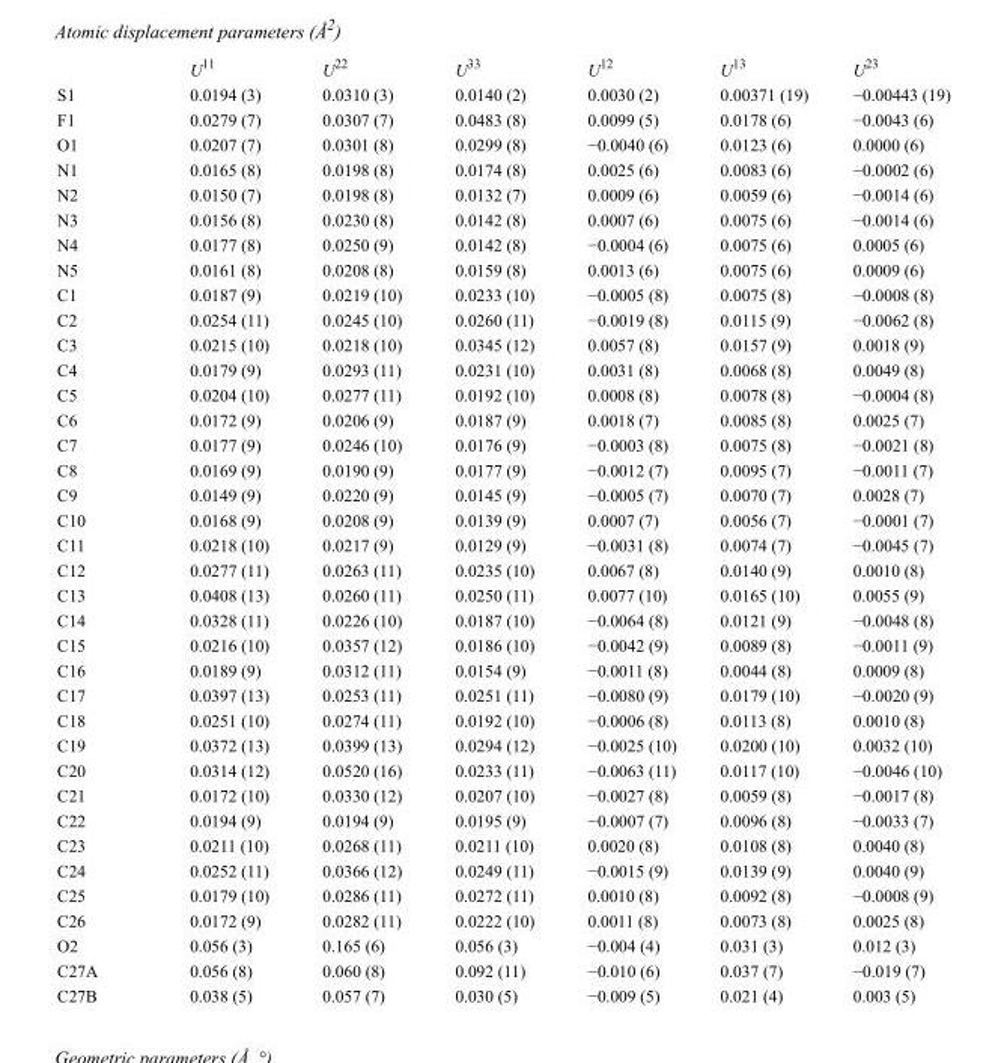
<table><thead><tr><td></td><td>U<sup>11</sup></td><td>U<sup>22</sup></td><td>U<sup>33</sup></td><td>U<sup>12</sup></td><td>U<sup>13</sup></td><td>U<sup>23</sup></td></tr></thead><tbody><tr><td>S1</td><td>0.0194 (3)</td><td>0.0310 (3)</td><td>0.0140 (2)</td><td>0.0030 (2)</td><td>0.00371 (19)</td><td>−0.00443 (19)</td></tr><tr><td>F1</td><td>0.0279 (7)</td><td>0.0307 (7)</td><td>0.0483 (8)</td><td>0.0099 (5)</td><td>0.0178 (6)</td><td>−0.0043 (6)</td></tr><tr><td>O1</td><td>0.0207 (7)</td><td>0.0301 (8)</td><td>0.0299 (8)</td><td>−0.0040 (6)</td><td>0.0123 (6)</td><td>0.0000 (6)</td></tr><tr><td>N1</td><td>0.0165 (8)</td><td>0.0198 (8)</td><td>0.0174 (8)</td><td>0.0025 (6)</td><td>0.0083 (6)</td><td>−0.0002 (6)</td></tr><tr><td>N2</td><td>0.0150 (7)</td><td>0.0198 (8)</td><td>0.0132 (7)</td><td>0.0009 (6)</td><td>0.0059 (6)</td><td>−0.0014 (6)</td></tr><tr><td>N3</td><td>0.0156 (8)</td><td>0.0230 (8)</td><td>0.0142 (8)</td><td>0.0007 (6)</td><td>0.0075 (6)</td><td>−0.0014 (6)</td></tr><tr><td>N4</td><td>0.0177 (8)</td><td>0.0250 (9)</td><td>0.0142 (8)</td><td>−0.0004 (6)</td><td>0.0075 (6)</td><td>0.0005 (6)</td></tr><tr><td>N5</td><td>0.0161 (8)</td><td>0.0208 (8)</td><td>0.0159 (8)</td><td>0.0013 (6)</td><td>0.0075 (6)</td><td>0.0009 (6)</td></tr><tr><td>C1</td><td>0.0187 (9)</td><td>0.0219 (10)</td><td>0.0233 (10)</td><td>−0.0005 (8)</td><td>0.0075 (8)</td><td>−0.0008 (8)</td></tr><tr><td>C2</td><td>0.0254 (11)</td><td>0.0245 (10)</td><td>0.0260 (11)</td><td>−0.0019 (8)</td><td>0.0115 (9)</td><td>−0.0062 (8)</td></tr><tr><td>C3</td><td>0.0215 (10)</td><td>0.0218 (10)</td><td>0.0345 (12)</td><td>0.0057 (8)</td><td>0.0157 (9)</td><td>0.0018 (9)</td></tr><tr><td>C4</td><td>0.0179 (9)</td><td>0.0293 (11)</td><td>0.0231 (10)</td><td>0.0031 (8)</td><td>0.0068 (8)</td><td>0.0049 (8)</td></tr><tr><td>C5</td><td>0.0204 (10)</td><td>0.0277 (11)</td><td>0.0192 (10)</td><td>0.0008 (8)</td><td>0.0078 (8)</td><td>−0.0004 (8)</td></tr><tr><td>C6</td><td>0.0172 (9)</td><td>0.0206 (9)</td><td>0.0187 (9)</td><td>0.0018 (7)</td><td>0.0085 (8)</td><td>0.0025 (7)</td></tr><tr><td>C7</td><td>0.0177 (9)</td><td>0.0246 (10)</td><td>0.0176 (9)</td><td>−0.0003 (8)</td><td>0.0075 (8)</td><td>−0.0021 (8)</td></tr><tr><td>C8</td><td>0.0169 (9)</td><td>0.0190 (9)</td><td>0.0177 (9)</td><td>−0.0012 (7)</td><td>0.0095 (7)</td><td>−0.0011 (7)</td></tr><tr><td>C9</td><td>0.0149 (9)</td><td>0.0220 (9)</td><td>0.0145 (9)</td><td>−0.0005 (7)</td><td>0.0070 (7)</td><td>0.0028 (7)</td></tr><tr><td>C10</td><td>0.0168 (9)</td><td>0.0208 (9)</td><td>0.0139 (9)</td><td>0.0007 (7)</td><td>0.0056 (7)</td><td>−0.0001 (7)</td></tr><tr><td>C11</td><td>0.0218 (10)</td><td>0.0217 (9)</td><td>0.0129 (9)</td><td>−0.0031 (8)</td><td>0.0074 (7)</td><td>−0.0045 (7)</td></tr><tr><td>C12</td><td>0.0277 (11)</td><td>0.0263 (11)</td><td>0.0235 (10)</td><td>0.0067 (8)</td><td>0.0140 (9)</td><td>0.0010 (8)</td></tr><tr><td>C13</td><td>0.0408 (13)</td><td>0.0260 (11)</td><td>0.0250 (11)</td><td>0.0077 (10)</td><td>0.0165 (10)</td><td>0.0055 (9)</td></tr><tr><td>C14</td><td>0.0328 (11)</td><td>0.0226 (10)</td><td>0.0187 (10)</td><td>−0.0064 (8)</td><td>0.0121 (9)</td><td>−0.0048 (8)</td></tr><tr><td>C15</td><td>0.0216 (10)</td><td>0.0357 (12)</td><td>0.0186 (10)</td><td>−0.0042 (9)</td><td>0.0089 (8)</td><td>−0.0011 (9)</td></tr><tr><td>C16</td><td>0.0189 (9)</td><td>0.0312 (11)</td><td>0.0154 (9)</td><td>−0.0011 (8)</td><td>0.0044 (8)</td><td>0.0009 (8)</td></tr><tr><td>C17</td><td>0.0397 (13)</td><td>0.0253 (11)</td><td>0.0251 (11)</td><td>−0.0080 (9)</td><td>0.0179 (10)</td><td>−0.0020 (9)</td></tr><tr><td>C18</td><td>0.0251 (10)</td><td>0.0274 (11)</td><td>0.0192 (10)</td><td>−0.0006 (8)</td><td>0.0113 (8)</td><td>0.0010 (8)</td></tr><tr><td>C19</td><td>0.0372 (13)</td><td>0.0399 (13)</td><td>0.0294 (12)</td><td>−0.0025 (10)</td><td>0.0200 (10)</td><td>0.0032 (10)</td></tr><tr><td>C20</td><td>0.0314 (12)</td><td>0.0520 (16)</td><td>0.0233 (11)</td><td>−0.0063 (11)</td><td>0.0117 (10)</td><td>−0.0046 (10)</td></tr><tr><td>C21</td><td>0.0172 (10)</td><td>0.0330 (12)</td><td>0.0207 (10)</td><td>−0.0027 (8)</td><td>0.0059 (8)</td><td>−0.0017 (8)</td></tr><tr><td>C22</td><td>0.0194 (9)</td><td>0.0194 (9)</td><td>0.0195 (9)</td><td>−0.0007 (7)</td><td>0.0096 (8)</td><td>−0.0033 (7)</td></tr><tr><td>C23</td><td>0.0211 (10)</td><td>0.0268 (11)</td><td>0.0211 (10)</td><td>0.0020 (8)</td><td>0.0108 (8)</td><td>0.0040 (8)</td></tr><tr><td>C24</td><td>0.0252 (11)</td><td>0.0366 (12)</td><td>0.0249 (11)</td><td>−0.0015 (9)</td><td>0.0139 (9)</td><td>0.0040 (9)</td></tr><tr><td>C25</td><td>0.0179 (10)</td><td>0.0286 (11)</td><td>0.0272 (11)</td><td>0.0010 (8)</td><td>0.0092 (8)</td><td>−0.0008 (9)</td></tr><tr><td>C26</td><td>0.0172 (9)</td><td>0.0282 (11)</td><td>0.0222 (10)</td><td>0.0011 (8)</td><td>0.0073 (8)</td><td>0.0025 (8)</td></tr><tr><td>O2</td><td>0.056 (3)</td><td>0.165 (6)</td><td>0.056 (3)</td><td>−0.004 (4)</td><td>0.031 (3)</td><td>0.012 (3)</td></tr><tr><td>C27A</td><td>0.056 (8)</td><td>0.060 (8)</td><td>0.092 (11)</td><td>−0.010 (6)</td><td>0.037 (7)</td><td>−0.019 (7)</td></tr><tr><td>C27B</td><td>0.038 (5)</td><td>0.057 (7)</td><td>0.030 (5)</td><td>−0.009 (5)</td><td>0.021 (4)</td><td>0.003 (5)</td></tr></tbody></table>